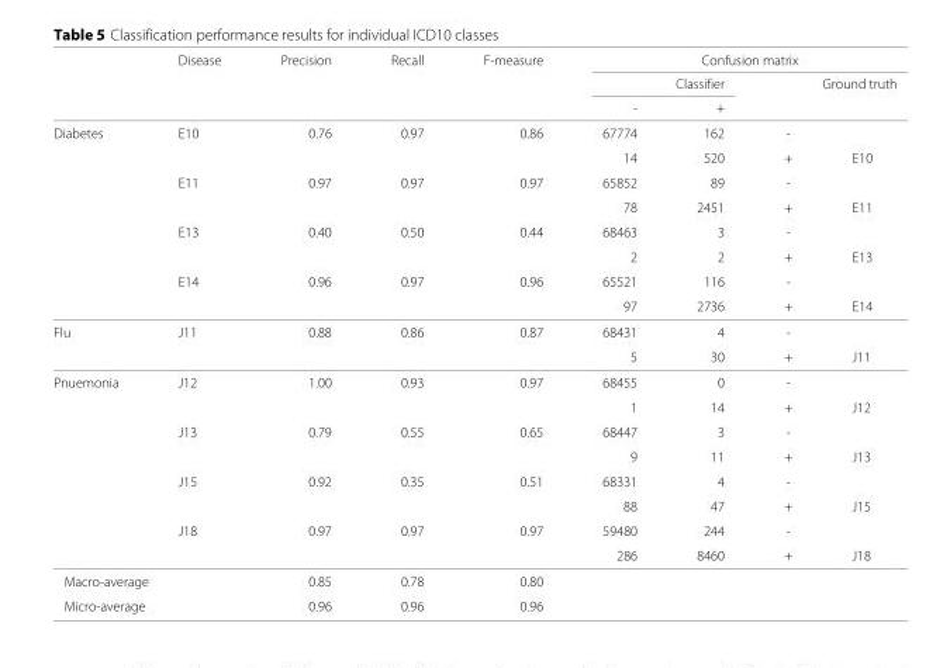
<table><thead><tr><td rowspan="3"></td><td rowspan="3">Disease</td><td rowspan="3">Precision</td><td rowspan="3">Recall</td><td rowspan="3">F-measure</td><td colspan="4">Confusion matrix</td></tr><tr><td colspan="2">Classifier</td><td colspan="2">Ground truth</td></tr><tr><td>-</td><td>+</td><td></td><td></td></tr></thead><tbody><tr><td rowspan="8">Diabetes</td><td>E10</td><td>0.76</td><td>0.97</td><td>0.86</td><td>67774</td><td>162</td><td>-</td><td></td></tr><tr><td></td><td></td><td></td><td></td><td>14</td><td>520</td><td>+</td><td>E10</td></tr><tr><td>E11</td><td>0.97</td><td>0.97</td><td>0.97</td><td>65852</td><td>89</td><td>-</td><td></td></tr><tr><td></td><td></td><td></td><td></td><td>78</td><td>2451</td><td>+</td><td>E11</td></tr><tr><td>E13</td><td>0.40</td><td>0.50</td><td>0.44</td><td>68463</td><td>3</td><td>-</td><td></td></tr><tr><td></td><td></td><td></td><td></td><td>2</td><td>2</td><td>+</td><td>E13</td></tr><tr><td>E14</td><td>0.96</td><td>0.97</td><td>0.96</td><td>65521</td><td>116</td><td>-</td><td></td></tr><tr><td></td><td></td><td></td><td></td><td>97</td><td>2736</td><td>+</td><td>E14</td></tr><tr><td rowspan="2">Flu</td><td>J11</td><td>0.88</td><td>0.86</td><td>0.87</td><td>68431</td><td>4</td><td>-</td><td></td></tr><tr><td></td><td></td><td></td><td></td><td>5</td><td>30</td><td>+</td><td>J11</td></tr><tr><td rowspan="8">Pnuemonia</td><td>J12</td><td>1.00</td><td>0.93</td><td>0.97</td><td>68455</td><td>0</td><td>-</td><td></td></tr><tr><td></td><td></td><td></td><td></td><td>1</td><td>14</td><td>+</td><td>J12</td></tr><tr><td>J13</td><td>0.79</td><td>0.55</td><td>0.65</td><td>68447</td><td>3</td><td>-</td><td></td></tr><tr><td></td><td></td><td></td><td></td><td>9</td><td>11</td><td>+</td><td>J13</td></tr><tr><td>J15</td><td>0.92</td><td>0.35</td><td>0.51</td><td>68331</td><td>4</td><td>-</td><td></td></tr><tr><td></td><td></td><td></td><td></td><td>88</td><td>47</td><td>+</td><td>J15</td></tr><tr><td>J18</td><td>0.97</td><td>0.97</td><td>0.97</td><td>59480</td><td>244</td><td>-</td><td></td></tr><tr><td></td><td></td><td></td><td></td><td>286</td><td>8460</td><td>+</td><td>J18</td></tr><tr><td colspan="2">Macro-average</td><td>0.85</td><td>0.78</td><td>0.80</td><td></td><td></td><td></td><td></td></tr><tr><td colspan="2">Micro-average</td><td>0.96</td><td>0.96</td><td>0.96</td><td></td><td></td><td></td><td></td></tr></tbody></table>